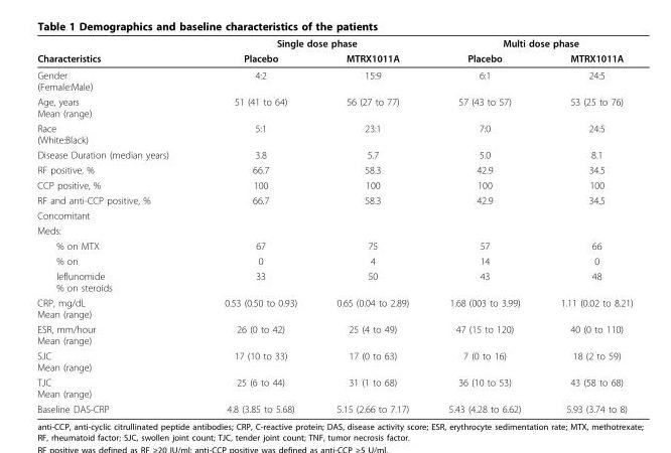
<table><thead><tr><td rowspan="2">Characteristics</td><td colspan="2">Single dose phase</td><td colspan="2">Multi dose phase</td></tr><tr><td>Placebo</td><td>MTRX1011A</td><td>Placebo</td><td>MTRX1011A</td></tr></thead><tbody><tr><td>Gender (Female:Male)</td><td>4:2</td><td>15:9</td><td>6:1</td><td>24:5</td></tr><tr><td>Age, years Mean (range)</td><td>51 (41 to 64)</td><td>56 (27 to 77)</td><td>57 (43 to 57)</td><td>53 (25 to 76)</td></tr><tr><td>Race (White:Black)</td><td>5:1</td><td>23:1</td><td>7:0</td><td>24:5</td></tr><tr><td>Disease Duration (median years)</td><td>3.8</td><td>5.7</td><td>5.0</td><td>8.1</td></tr><tr><td>RF positive, %</td><td>66.7</td><td>58.3</td><td>42.9</td><td>34.5</td></tr><tr><td>CCP positive, %</td><td>100</td><td>100</td><td>100</td><td>100</td></tr><tr><td>RF and anti-CCP positive, %</td><td>66.7</td><td>58.3</td><td>42.9</td><td>34.5</td></tr><tr><td colspan="5">Concomitant</td></tr><tr><td colspan="5">Meds:</td></tr><tr><td>% on MTX</td><td>67</td><td>75</td><td>57</td><td>66</td></tr><tr><td>% on</td><td>0</td><td>4</td><td>14</td><td>0</td></tr><tr><td>leflunomide % on steroids</td><td>33</td><td>50</td><td>43</td><td>48</td></tr><tr><td>CRP, mg/dL Mean (range)</td><td>0.53 (0.50 to 0.93)</td><td>0.65 (0.04 to 2.89)</td><td>1.68 (003 to 3.99)</td><td>1.11 (0.02 to 8.21)</td></tr><tr><td>ESR, mm/hour Mean (range)</td><td>26 (0 to 42)</td><td>25 (4 to 49)</td><td>47 (15 to 120)</td><td>40 (0 to 110)</td></tr><tr><td>SJC Mean (range)</td><td>17 (10 to 33)</td><td>17 (0 to 63)</td><td>7 (0 to 16)</td><td>18 (2 to 59)</td></tr><tr><td>TJC Mean (range)</td><td>25 (6 to 44)</td><td>31 (1 to 68)</td><td>36 (10 to 53)</td><td>43 (58 to 68)</td></tr><tr><td>Baseline DAS-CRP</td><td>4.8 (3.85 to 5.68)</td><td>5.15 (2.66 to 7.17)</td><td>5.43 (4.28 to 6.62)</td><td>5.93 (3.74 to 8)</td></tr></tbody></table>